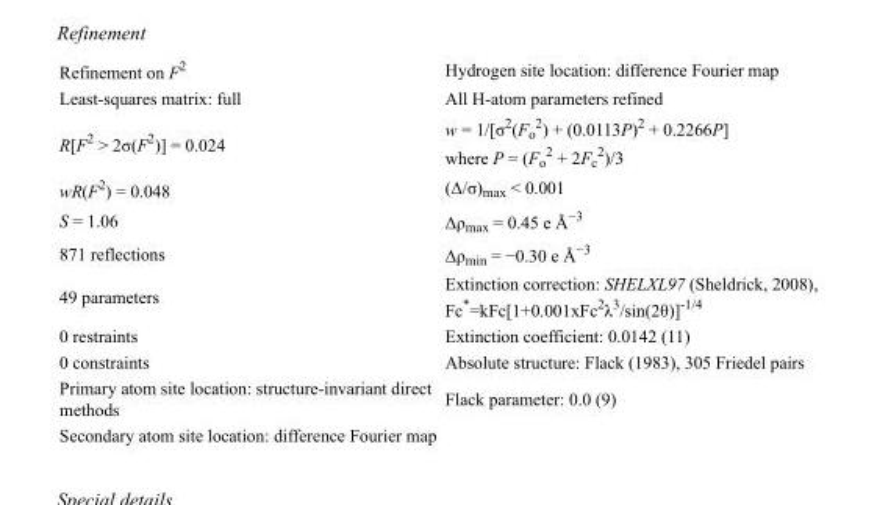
<table><tbody><tr><td>Refinement on F<sup>2</sup></td><td>Hydrogen site location: difference Fourier map</td></tr><tr><td>Least-squares matrix: full</td><td>All H-atom parameters refined</td></tr><tr><td>R[F<sup>2</sup> &gt; 2σ(F<sup>2</sup>)] = 0.024</td><td>w = 1/[σ<sup>2</sup>(F<sub>o</sub> <sup>2</sup>) + (0.0113P)<sup>2</sup> + 0.2266P] where P = (F<sub>o</sub> <sup>2</sup> + 2F<sub>c</sub> <sup>2</sup>)/3</td></tr><tr><td>wR(F<sup>2</sup>) = 0.048</td><td>(Δ/σ)<sub>max</sub> &lt; 0.001</td></tr><tr><td>S = 1.06</td><td>Δρ<sub>max</sub> = 0.45 e Å<sup>−3</sup></td></tr><tr><td>871 reflections</td><td>Δρ<sub>min</sub> = −0.30 e Å<sup>−3</sup></td></tr><tr><td>49 parameters</td><td>Extinction correction: SHELXL97 (Sheldrick, 2008), Fc*=kFc[1+0.001xFc<sup>2</sup>λ<sup>3</sup>/sin(2θ)]<sup>-1/4</sup></td></tr><tr><td>0 restraints</td><td>Extinction coefficient: 0.0142 (11)</td></tr><tr><td>0 constraints</td><td>Absolute structure: Flack (1983), 305 Friedel pairs</td></tr><tr><td>Primary atom site location: structure-invariant direct methods</td><td>Flack parameter: 0.0 (9)</td></tr><tr><td>Secondary atom site location: difference Fourier map</td><td></td></tr></tbody></table>